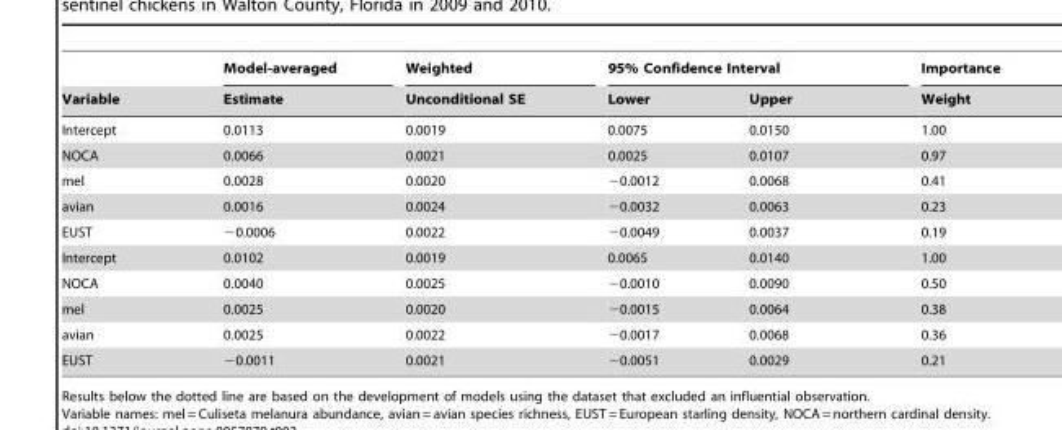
<table><thead><tr><td rowspan="2">Variable</td><td rowspan="2">Model-averaged Estimate</td><td rowspan="2">Weighted Unconditional SE</td><td colspan="2">95% Confidence Interval</td><td rowspan="2">Importance Weight</td></tr><tr><td>Lower</td><td>Upper</td></tr></thead><tbody><tr><td>Intercept</td><td>0.0113</td><td>0.0019</td><td>0.0075</td><td>0.0150</td><td>1.00</td></tr><tr><td>NOCA</td><td>0.0066</td><td>0.0021</td><td>0.0025</td><td>0.0107</td><td>0.97</td></tr><tr><td>mel</td><td>0.0028</td><td>0.0020</td><td>−0.0012</td><td>0.0068</td><td>0.41</td></tr><tr><td>avian</td><td>0.0016</td><td>0.0024</td><td>−0.0032</td><td>0.0063</td><td>0.23</td></tr><tr><td>EUST</td><td>−0.0006</td><td>0.0022</td><td>−0.0049</td><td>0.0037</td><td>0.19</td></tr><tr><td>Intercept</td><td>0.0102</td><td>0.0019</td><td>0.0065</td><td>0.0140</td><td>1.00</td></tr><tr><td>NOCA</td><td>0.0040</td><td>0.0025</td><td>−0.0010</td><td>0.0090</td><td>0.50</td></tr><tr><td>mel</td><td>0.0025</td><td>0.0020</td><td>−0.0015</td><td>0.0064</td><td>0.38</td></tr><tr><td>avian</td><td>0.0025</td><td>0.0022</td><td>−0.0017</td><td>0.0068</td><td>0.36</td></tr><tr><td>EUST</td><td>−0.0011</td><td>0.0021</td><td>−0.0051</td><td>0.0029</td><td>0.21</td></tr></tbody></table>